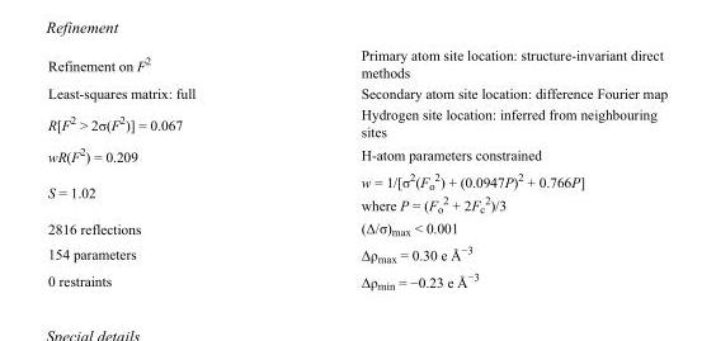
<table><tbody><tr><td>Refinement on F<sup>2</sup></td><td>Primary atom site location: structure-invariant direct methods</td></tr><tr><td>Least-squares matrix: full</td><td>Secondary atom site location: difference Fourier map</td></tr><tr><td>R[F<sup>2</sup> &gt; 2σ(F<sup>2</sup>)] = 0.067</td><td>Hydrogen site location: inferred from neighbouring sites</td></tr><tr><td>wR(F<sup>2</sup>) = 0.209</td><td>H-atom parameters constrained</td></tr><tr><td>S = 1.02</td><td>w = 1/[σ<sup>2</sup>(F<sub>o</sub> <sup>2</sup>) + (0.0947P)<sup>2</sup> + 0.766P] where P = (F<sub>o</sub> <sup>2</sup> + 2F<sub>c</sub> <sup>2</sup>)/3</td></tr><tr><td>2816 reflections</td><td>(Δ/σ)<sub>max</sub> &lt; 0.001</td></tr><tr><td>154 parameters</td><td>Δρ<sub>max</sub> = 0.30 e Å<sup>−3</sup></td></tr><tr><td>0 restraints</td><td>Δρ<sub>min</sub> = −0.23 e Å<sup>−3</sup></td></tr></tbody></table>